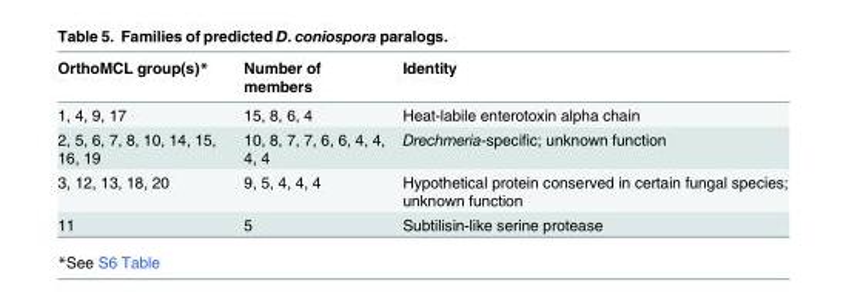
<table><thead><tr><td>OrthoMCL group(s)*</td><td>Number of members</td><td>Identity</td></tr></thead><tbody><tr><td>1, 4, 9, 17</td><td>15, 8, 6, 4</td><td>Heat-labile enterotoxin alpha chain</td></tr><tr><td>2, 5, 6, 7, 8, 10, 14, 15, 16, 19</td><td>10, 8, 7, 7, 6, 6, 4, 4, 4, 4</td><td>Drechmeria-specific; unknown function</td></tr><tr><td>3, 12, 13, 18, 20</td><td>9, 5, 4, 4, 4</td><td>Hypothetical protein conserved in certain fungal species; unknown function</td></tr><tr><td>11</td><td>5</td><td>Subtilisin-like serine protease</td></tr></tbody></table>